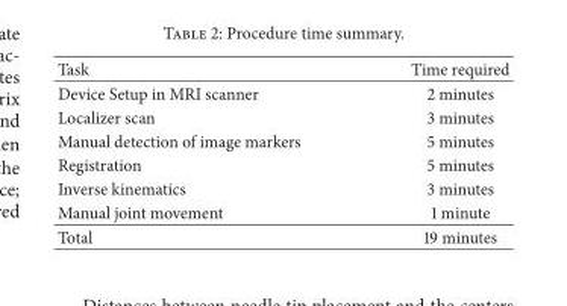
<table><thead><tr><td>Task</td><td>Time required</td></tr></thead><tbody><tr><td>Device Setup in MRI scanner</td><td>2 minutes</td></tr><tr><td>Localizer scan</td><td>3 minutes</td></tr><tr><td>Manual detection of image markers</td><td>5 minutes</td></tr><tr><td>Registration</td><td>5 minutes</td></tr><tr><td>Inverse kinematics</td><td>3 minutes</td></tr><tr><td>Manual joint movement</td><td>1 minute</td></tr><tr><td>Total</td><td>19 minutes</td></tr></tbody></table>